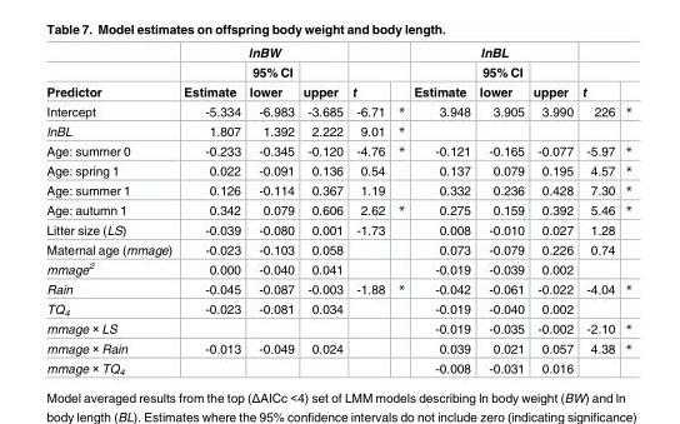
<table><thead><tr><td rowspan="3">Predictor</td><td colspan="3">lnBW</td><td rowspan="3">t</td><td rowspan="3"></td><td colspan="3">lnBL</td><td rowspan="3">t</td><td rowspan="3"></td></tr><tr><td rowspan="2">Estimate</td><td rowspan="2">95% CI lower</td><td rowspan="2">upper</td><td rowspan="2">Estimate</td><td rowspan="2">95% CI lower</td><td rowspan="2">upper</td></tr><tr></tr></thead><tbody><tr><td>Intercept</td><td>-5.334</td><td>-6.983</td><td>-3.685</td><td>-6.71</td><td>*</td><td>3.948</td><td>3.905</td><td>3.990</td><td>226</td><td>*</td></tr><tr><td>lnBL</td><td>1.807</td><td>1.392</td><td>2.222</td><td>9.01</td><td>*</td><td></td><td></td><td></td><td></td><td></td></tr><tr><td>Age: summer 0</td><td>-0.233</td><td>-0.345</td><td>-0.120</td><td>-4.76</td><td>*</td><td>-0.121</td><td>-0.165</td><td>-0.077</td><td>-5.97</td><td>*</td></tr><tr><td>Age: spring 1</td><td>0.022</td><td>-0.091</td><td>0.136</td><td>0.54</td><td></td><td>0.137</td><td>0.079</td><td>0.195</td><td>4.57</td><td>*</td></tr><tr><td>Age: summer 1</td><td>0.126</td><td>-0.114</td><td>0.367</td><td>1.19</td><td></td><td>0.332</td><td>0.236</td><td>0.428</td><td>7.30</td><td>*</td></tr><tr><td>Age: autumn 1</td><td>0.342</td><td>0.079</td><td>0.606</td><td>2.62</td><td>*</td><td>0.275</td><td>0.159</td><td>0.392</td><td>5.46</td><td>*</td></tr><tr><td>Litter size (LS)</td><td>-0.039</td><td>-0.080</td><td>0.001</td><td>-1.73</td><td></td><td>0.008</td><td>-0.010</td><td>0.027</td><td>1.28</td><td></td></tr><tr><td>Maternal age (mmage)</td><td>-0.023</td><td>-0.103</td><td>0.058</td><td></td><td></td><td>0.073</td><td>-0.079</td><td>0.226</td><td>0.74</td><td></td></tr><tr><td>mmage<sup>2</sup></td><td>0.000</td><td>-0.040</td><td>0.041</td><td></td><td></td><td>-0.019</td><td>-0.039</td><td>0.002</td><td></td><td></td></tr><tr><td>Rain</td><td>-0.045</td><td>-0.087</td><td>-0.003</td><td>-1.88</td><td>*</td><td>-0.042</td><td>-0.061</td><td>-0.022</td><td>-4.04</td><td>*</td></tr><tr><td>TQ<sub>4</sub></td><td>-0.023</td><td>-0.081</td><td>0.034</td><td></td><td></td><td>-0.019</td><td>-0.040</td><td>0.002</td><td></td><td></td></tr><tr><td>mmage × LS</td><td></td><td></td><td></td><td></td><td></td><td>-0.019</td><td>-0.035</td><td>-0.002</td><td>-2.10</td><td>*</td></tr><tr><td>mmage × Rain</td><td>-0.013</td><td>-0.049</td><td>0.024</td><td></td><td></td><td>0.039</td><td>0.021</td><td>0.057</td><td>4.38</td><td>*</td></tr><tr><td>mmage × TQ<sub>4</sub></td><td></td><td></td><td></td><td></td><td></td><td>-0.008</td><td>-0.031</td><td>0.016</td><td></td><td></td></tr></tbody></table>